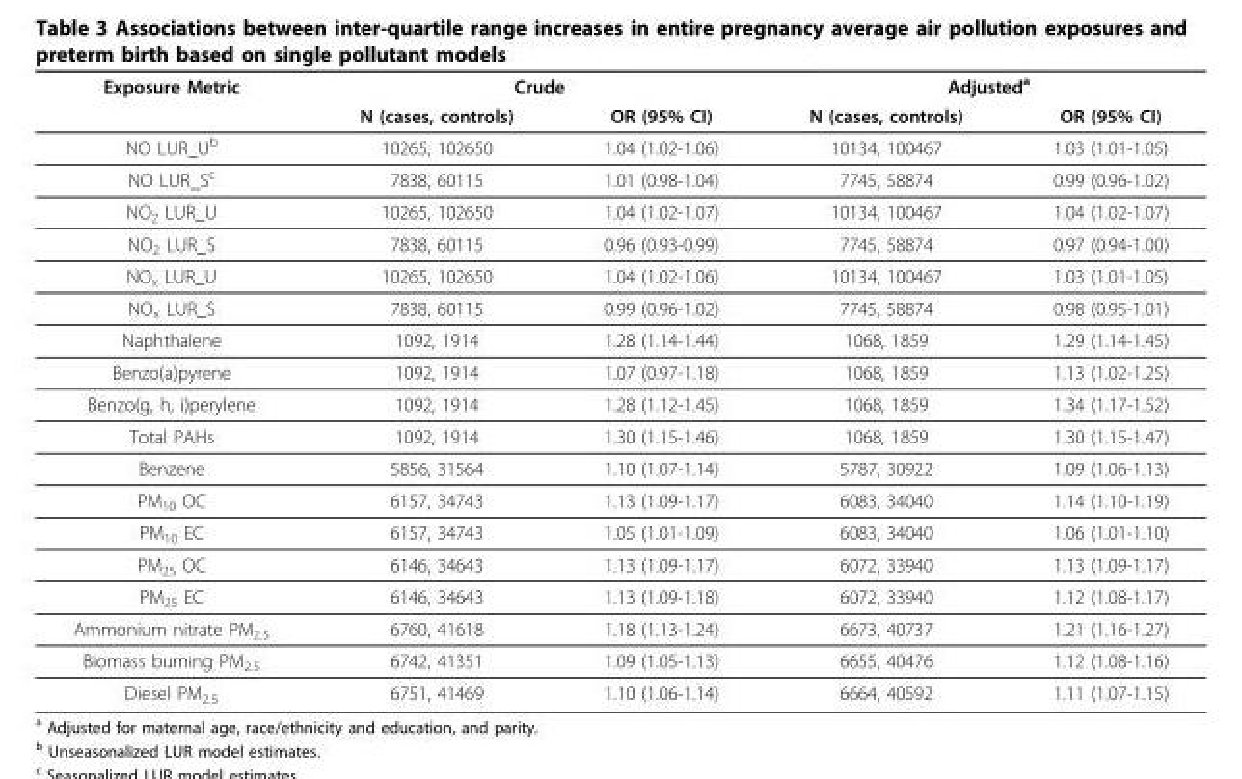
<table><thead><tr><td rowspan="2">Exposure Metric</td><td colspan="2">Crude</td><td colspan="2">Adjusteda</td></tr><tr><td>N (cases, controls)</td><td>OR (95% CI)</td><td>N (cases, controls)</td><td>OR (95% CI)</td></tr></thead><tbody><tr><td>NO LUR_Ub</td><td>10265, 102650</td><td>1.04 (1.02-1.06)</td><td>10134, 100467</td><td>1.03 (1.01-1.05)</td></tr><tr><td>NO LUR_Sc</td><td>7838, 60115</td><td>1.01 (0.98-1.04)</td><td>7745, 58874</td><td>0.99 (0.96-1.02)</td></tr><tr><td>NO2 LUR_U</td><td>10265, 102650</td><td>1.04 (1.02-1.07)</td><td>10134, 100467</td><td>1.04 (1.02-1.07)</td></tr><tr><td>NO2 LUR_S</td><td>7838, 60115</td><td>0.96 (0.93-0.99)</td><td>7745, 58874</td><td>0.97 (0.94-1.00)</td></tr><tr><td>NOx LUR_U</td><td>10265, 102650</td><td>1.04 (1.02-1.06)</td><td>10134, 100467</td><td>1.03 (1.01-1.05)</td></tr><tr><td>NOx LUR_S</td><td>7838, 60115</td><td>0.99 (0.96-1.02)</td><td>7745, 58874</td><td>0.98 (0.95-1.01)</td></tr><tr><td>Naphthalene</td><td>1092, 1914</td><td>1.28 (1.14-1.44)</td><td>1068, 1859</td><td>1.29 (1.14-1.45)</td></tr><tr><td>Benzo(a)pyrene</td><td>1092, 1914</td><td>1.07 (0.97-1.18)</td><td>1068, 1859</td><td>1.13 (1.02-1.25)</td></tr><tr><td>Benzo(g, h, i)perylene</td><td>1092, 1914</td><td>1.28 (1.12-1.45)</td><td>1068, 1859</td><td>1.34 (1.17-1.52)</td></tr><tr><td>Total PAHs</td><td>1092, 1914</td><td>1.30 (1.15-1.46)</td><td>1068, 1859</td><td>1.30 (1.15-1.47)</td></tr><tr><td>Benzene</td><td>5856, 31564</td><td>1.10 (1.07-1.14)</td><td>5787, 30922</td><td>1.09 (1.06-1.13)</td></tr><tr><td>PM10 OC</td><td>6157, 34743</td><td>1.13 (1.09-1.17)</td><td>6083, 34040</td><td>1.14 (1.10-1.19)</td></tr><tr><td>PM10 EC</td><td>6157, 34743</td><td>1.05 (1.01-1.09)</td><td>6083, 34040</td><td>1.06 (1.01-1.10)</td></tr><tr><td>PM25 OC</td><td>6146, 34643</td><td>1.13 (1.09-1.17)</td><td>6072, 33940</td><td>1.13 (1.09-1.17)</td></tr><tr><td>PM25 EC</td><td>6146, 34643</td><td>1.13 (1.09-1.18)</td><td>6072, 33940</td><td>1.12 (1.08-1.17)</td></tr><tr><td>Ammonium nitrate PM2.5</td><td>6760, 41618</td><td>1.18 (1.13-1.24)</td><td>6673, 40737</td><td>1.21 (1.16-1.27)</td></tr><tr><td>Biomass burning PM2.5</td><td>6742, 41351</td><td>1.09 (1.05-1.13)</td><td>6655, 40476</td><td>1.12 (1.08-1.16)</td></tr><tr><td>Diesel PM2.5</td><td>6751, 41469</td><td>1.10 (1.06-1.14)</td><td>6664, 40592</td><td>1.11 (1.07-1.15)</td></tr></tbody></table>